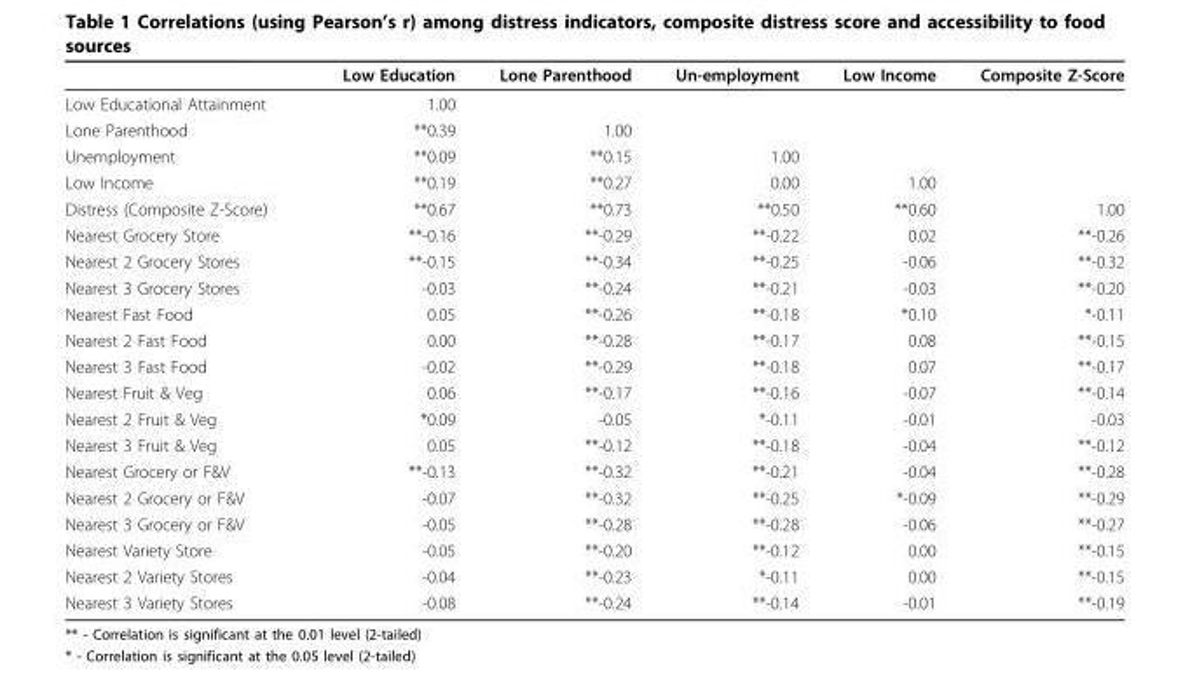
<table><thead><tr><td></td><td>Low Education</td><td>Lone Parenthood</td><td>Un-employment</td><td>Low Income</td><td>Composite Z-Score</td></tr></thead><tbody><tr><td>Low Educational Attainment</td><td>1.00</td><td></td><td></td><td></td><td></td></tr><tr><td>Lone Parenthood</td><td>**0.39</td><td>1.00</td><td></td><td></td><td></td></tr><tr><td>Unemployment</td><td>**0.09</td><td>**0.15</td><td>1.00</td><td></td><td></td></tr><tr><td>Low Income</td><td>**0.19</td><td>**0.27</td><td>0.00</td><td>1.00</td><td></td></tr><tr><td>Distress (Composite Z-Score)</td><td>**0.67</td><td>**0.73</td><td>**0.50</td><td>**0.60</td><td>1.00</td></tr><tr><td>Nearest Grocery Store</td><td>**-0.16</td><td>**-0.29</td><td>**-0.22</td><td>0.02</td><td>**-0.26</td></tr><tr><td>Nearest 2 Grocery Stores</td><td>**-0.15</td><td>**-0.34</td><td>**-0.25</td><td>-0.06</td><td>**-0.32</td></tr><tr><td>Nearest 3 Grocery Stores</td><td>-0.03</td><td>**-0.24</td><td>**-0.21</td><td>-0.03</td><td>**-0.20</td></tr><tr><td>Nearest Fast Food</td><td>0.05</td><td>**-0.26</td><td>**-0.18</td><td>*0.10</td><td>*-0.11</td></tr><tr><td>Nearest 2 Fast Food</td><td>0.00</td><td>**-0.28</td><td>**-0.17</td><td>0.08</td><td>**-0.15</td></tr><tr><td>Nearest 3 Fast Food</td><td>-0.02</td><td>**-0.29</td><td>**-0.18</td><td>0.07</td><td>**-0.17</td></tr><tr><td>Nearest Fruit &amp; Veg</td><td>0.06</td><td>**-0.17</td><td>**-0.16</td><td>-0.07</td><td>**-0.14</td></tr><tr><td>Nearest 2 Fruit &amp; Veg</td><td>*0.09</td><td>-0.05</td><td>*-0.11</td><td>-0.01</td><td>-0.03</td></tr><tr><td>Nearest 3 Fruit &amp; Veg</td><td>0.05</td><td>**-0.12</td><td>**-0.18</td><td>-0.04</td><td>**-0.12</td></tr><tr><td>Nearest Grocery or F&amp;V</td><td>**-0.13</td><td>**-0.32</td><td>**-0.21</td><td>-0.04</td><td>**-0.28</td></tr><tr><td>Nearest 2 Grocery or F&amp;V</td><td>-0.07</td><td>**-0.32</td><td>**-0.25</td><td>*-0.09</td><td>**-0.29</td></tr><tr><td>Nearest 3 Grocery or F&amp;V</td><td>-0.05</td><td>**-0.28</td><td>**-0.28</td><td>-0.06</td><td>**-0.27</td></tr><tr><td>Nearest Variety Store</td><td>-0.05</td><td>**-0.20</td><td>**-0.12</td><td>0.00</td><td>**-0.15</td></tr><tr><td>Nearest 2 Variety Stores</td><td>-0.04</td><td>**-0.23</td><td>*-0.11</td><td>0.00</td><td>**-0.15</td></tr><tr><td>Nearest 3 Variety Stores</td><td>-0.08</td><td>**-0.24</td><td>**-0.14</td><td>-0.01</td><td>**-0.19</td></tr></tbody></table>